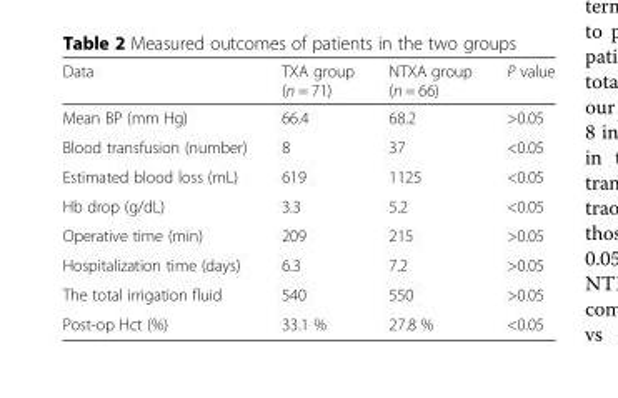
<table><thead><tr><td>Data</td><td>TXA group (n = 71)</td><td>NTXA group (n = 66)</td><td>P value</td></tr></thead><tbody><tr><td>Mean BP (mm Hg)</td><td>66.4</td><td>68.2</td><td>&gt;0.05</td></tr><tr><td>Blood transfusion (number)</td><td>8</td><td>37</td><td>&lt;0.05</td></tr><tr><td>Estimated blood loss (mL)</td><td>619</td><td>1125</td><td>&lt;0.05</td></tr><tr><td>Hb drop (g/dL)</td><td>3.3</td><td>5.2</td><td>&lt;0.05</td></tr><tr><td>Operative time (min)</td><td>209</td><td>215</td><td>&gt;0.05</td></tr><tr><td>Hospitalization time (days)</td><td>6.3</td><td>7.2</td><td>&gt;0.05</td></tr><tr><td>The total irrigation fluid</td><td>540</td><td>550</td><td>&gt;0.05</td></tr><tr><td>Post-op Hct (%)</td><td>33.1 %</td><td>27.8 %</td><td>&lt;0.05</td></tr></tbody></table>